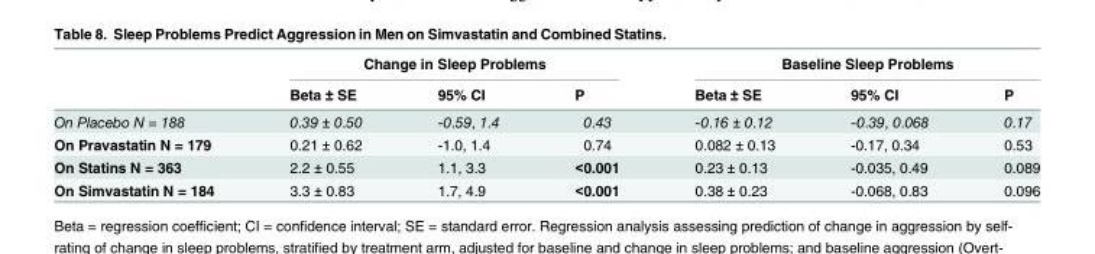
<table><thead><tr><td rowspan="2"></td><td colspan="3">Change in Sleep Problems</td><td colspan="3">Baseline Sleep Problems</td></tr><tr><td>Beta ± SE</td><td>95% CI</td><td>P</td><td>Beta ± SE</td><td>95% CI</td><td>P</td></tr></thead><tbody><tr><td>On Placebo N = 188</td><td>0.39 ± 0.50</td><td>-0.59, 1.4</td><td>0.43</td><td>-0.16 ± 0.12</td><td>-0.39, 0.068</td><td>0.17</td></tr><tr><td>On Pravastatin N = 179</td><td>0.21 ± 0.62</td><td>-1.0, 1.4</td><td>0.74</td><td>0.082 ± 0.13</td><td>-0.17, 0.34</td><td>0.53</td></tr><tr><td>On Statins N = 363</td><td>2.2 ± 0.55</td><td>1.1, 3.3</td><td>&lt;0.001</td><td>0.23 ± 0.13</td><td>-0.035, 0.49</td><td>0.089</td></tr><tr><td>On Simvastatin N = 184</td><td>3.3 ± 0.83</td><td>1.7, 4.9</td><td>&lt;0.001</td><td>0.38 ± 0.23</td><td>-0.068, 0.83</td><td>0.096</td></tr></tbody></table>